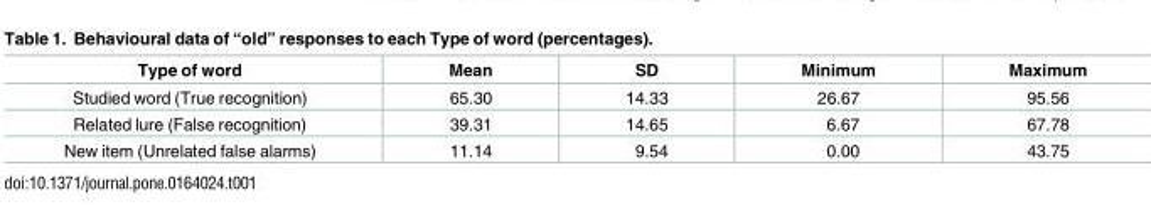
<table><thead><tr><td>Type of word</td><td>Mean</td><td>SD</td><td>Minimum</td><td>Maximum</td></tr></thead><tbody><tr><td>Studied word (True recognition)</td><td>65.30</td><td>14.33</td><td>26.67</td><td>95.56</td></tr><tr><td>Related lure (False recognition)</td><td>39.31</td><td>14.65</td><td>6.67</td><td>67.78</td></tr><tr><td>New item (Unrelated false alarms)</td><td>11.14</td><td>9.54</td><td>0.00</td><td>43.75</td></tr></tbody></table>